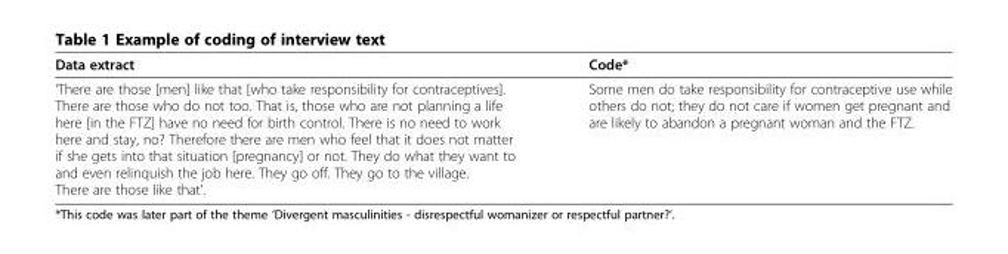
<table><thead><tr><td>Data extract</td><td>Code*</td></tr></thead><tbody><tr><td>‘There are those [men] like that [who take responsibility for contraceptives]. There are those who do not too. That is, those who are not planning a life here [in the FTZ] have no need for birth control. There is no need to work here and stay, no? Therefore there are men who feel that it does not matter if she gets into that situation [pregnancy] or not. They do what they want to and even relinquish the job here. They go off. They go to the village. There are those like that’.</td><td>Some men do take responsibility for contraceptive use while others do not; they do not care if women get pregnant and are likely to abandon a pregnant woman and the FTZ.</td></tr></tbody></table>